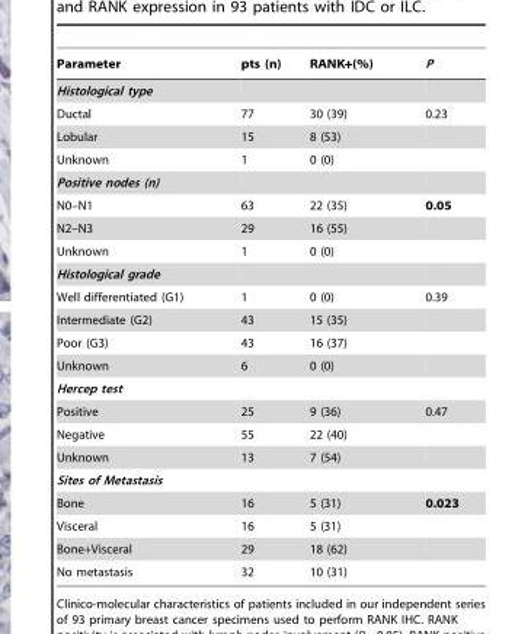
<table><thead><tr><td>Parameter</td><td>pts (n)</td><td>RANK+(%)</td><td>P</td></tr></thead><tbody><tr><td colspan="4">Histological type</td></tr><tr><td>Ductal</td><td>77</td><td>30 (39)</td><td>0.23</td></tr><tr><td>Lobular</td><td>15</td><td>8 (53)</td><td></td></tr><tr><td>Unknown</td><td>1</td><td>0 (0)</td><td></td></tr><tr><td colspan="4">Positive nodes (n)</td></tr><tr><td>N0–N1</td><td>63</td><td>22 (35)</td><td>0.05</td></tr><tr><td>N2–N3</td><td>29</td><td>16 (55)</td><td></td></tr><tr><td>Unknown</td><td>1</td><td>0 (0)</td><td></td></tr><tr><td colspan="4">Histological grade</td></tr><tr><td>Well differentiated (G1)</td><td>1</td><td>0 (0)</td><td>0.39</td></tr><tr><td>Intermediate (G2)</td><td>43</td><td>15 (35)</td><td></td></tr><tr><td>Poor (G3)</td><td>43</td><td>16 (37)</td><td></td></tr><tr><td>Unknown</td><td>6</td><td>0 (0)</td><td></td></tr><tr><td colspan="4">Hercep test</td></tr><tr><td>Positive</td><td>25</td><td>9 (36)</td><td>0.47</td></tr><tr><td>Negative</td><td>55</td><td>22 (40)</td><td></td></tr><tr><td>Unknown</td><td>13</td><td>7 (54)</td><td></td></tr><tr><td colspan="4">Sites of Metastasis</td></tr><tr><td>Bone</td><td>16</td><td>5 (31)</td><td>0.023</td></tr><tr><td>Visceral</td><td>16</td><td>5 (31)</td><td></td></tr><tr><td>Bone+Visceral</td><td>29</td><td>18 (62)</td><td></td></tr><tr><td>No metastasis</td><td>32</td><td>10 (31)</td><td></td></tr></tbody></table>